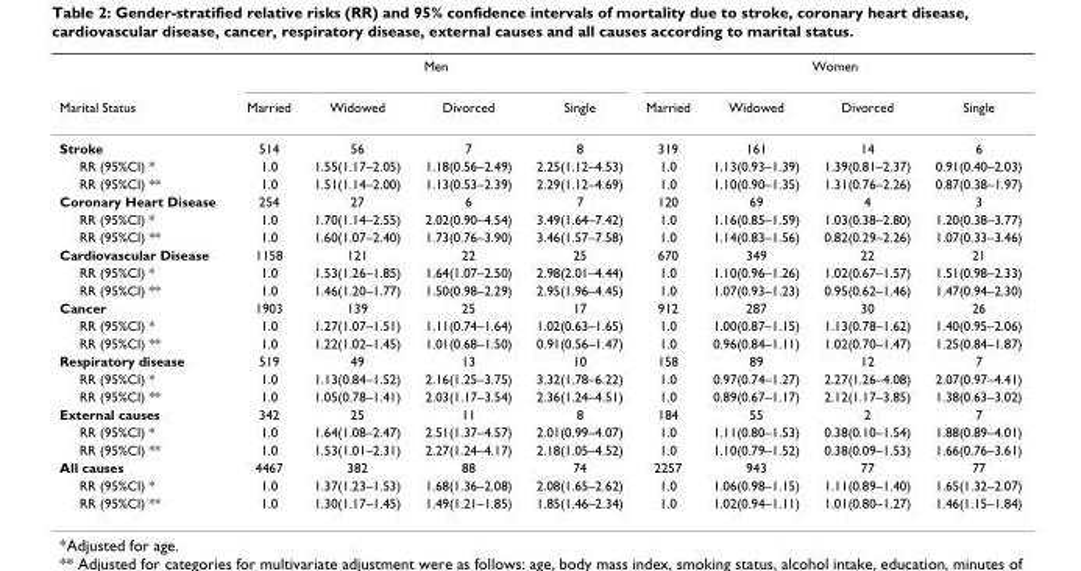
<table><thead><tr><td rowspan="2">Marital Status</td><td colspan="4">Men</td><td colspan="4">Women</td></tr><tr><td>Married</td><td>Widowed</td><td>Divorced</td><td>Single</td><td>Married</td><td>Widowed</td><td>Divorced</td><td>Single</td></tr></thead><tbody><tr><td>Stroke</td><td>514</td><td>56</td><td>7</td><td>8</td><td>319</td><td>161</td><td>14</td><td>6</td></tr><tr><td>RR (95%CI) *</td><td>1.0</td><td>1.55(1.17–2.05)</td><td>1.18(0.56–2.49)</td><td>2.25(1.12–4.53)</td><td>1.0</td><td>1.13(0.93–1.39)</td><td>1.39(0.81–2.37)</td><td>0.91(0.40–2.03)</td></tr><tr><td>RR (95%CI) **</td><td>1.0</td><td>1.51(1.14–2.00)</td><td>1.13(0.53–2.39)</td><td>2.29(1.12–4.69)</td><td>1.0</td><td>1.10(0.90–1.35)</td><td>1.31(0.76–2.26)</td><td>0.87(0.38–1.97)</td></tr><tr><td>Coronary Heart Disease</td><td>254</td><td>27</td><td>6</td><td>7</td><td>120</td><td>69</td><td>4</td><td>3</td></tr><tr><td>RR (95%CI) *</td><td>1.0</td><td>1.70(1.14–2.55)</td><td>2.02(0.90–4.54)</td><td>3.49(1.64–7.42)</td><td>1.0</td><td>1.16(0.85–1.59)</td><td>1.03(0.38–2.80)</td><td>1.20(0.38–3.77)</td></tr><tr><td>RR (95%CI) **</td><td>1.0</td><td>1.60(1.07–2.40)</td><td>1.73(0.76–3.90)</td><td>3.46(1.57–7.58)</td><td>1.0</td><td>1.14(0.83–1.56)</td><td>0.82(0.29–2.26)</td><td>1.07(0.33–3.46)</td></tr><tr><td>Cardiovascular Disease</td><td>1158</td><td>121</td><td>22</td><td>25</td><td>670</td><td>349</td><td>22</td><td>21</td></tr><tr><td>RR (95%CI) *</td><td>1.0</td><td>1.53(1.26–1.85)</td><td>1.64(1.07–2.50)</td><td>2.98(2.01–4.44)</td><td>1.0</td><td>1.10(0.96–1.26)</td><td>1.02(0.67–1.57)</td><td>1.51(0.98–2.33)</td></tr><tr><td>RR (95%CI) **</td><td>1.0</td><td>1.46(1.20–1.77)</td><td>1.50(0.98–2.29)</td><td>2.95(1.96–4.45)</td><td>1.0</td><td>1.07(0.93–1.23)</td><td>0.95(0.62–1.46)</td><td>1.47(0.94–2.30)</td></tr><tr><td>Cancer</td><td>1903</td><td>139</td><td>25</td><td>17</td><td>912</td><td>287</td><td>30</td><td>26</td></tr><tr><td>RR (95%CI) *</td><td>1.0</td><td>1.27(1.07–1.51)</td><td>1.11(0.74–1.64)</td><td>1.02(0.63–1.65)</td><td>1.0</td><td>1.00(0.87–1.15)</td><td>1.13(0.78–1.62)</td><td>1.40(0.95–2.06)</td></tr><tr><td>RR (95%CI) **</td><td>1.0</td><td>1.22(1.02–1.45)</td><td>1.01(0.68–1.50)</td><td>0.91(0.56–1.47)</td><td>1.0</td><td>0.96(0.84–1.11)</td><td>1.02(0.70–1.47)</td><td>1.25(0.84–1.87)</td></tr><tr><td>Respiratory disease</td><td>519</td><td>49</td><td>13</td><td>10</td><td>158</td><td>89</td><td>12</td><td>7</td></tr><tr><td>RR (95%CI) *</td><td>1.0</td><td>1.13(0.84–1.52)</td><td>2.16(1.25–3.75)</td><td>3.32(1.78–6.22)</td><td>1.0</td><td>0.97(0.74–1.27)</td><td>2.27(1.26–4.08)</td><td>2.07(0.97–4.41)</td></tr><tr><td>RR (95%CI) **</td><td>1.0</td><td>1.05(0.78–1.41)</td><td>2.03(1.17–3.54)</td><td>2.36(1.24–4.51)</td><td>1.0</td><td>0.89(0.67–1.17)</td><td>2.12(1.17–3.85)</td><td>1.38(0.63–3.02)</td></tr><tr><td>External causes</td><td>342</td><td>25</td><td>11</td><td>8</td><td>184</td><td>55</td><td>2</td><td>7</td></tr><tr><td>RR (95%CI) *</td><td>1.0</td><td>1.64(1.08–2.47)</td><td>2.51(1.37–4.57)</td><td>2.01(0.99–4.07)</td><td>1.0</td><td>1.11(0.80–1.53)</td><td>0.38(0.10–1.54)</td><td>1.88(0.89–4.01)</td></tr><tr><td>RR (95%CI) **</td><td>1.0</td><td>1.53(1.01–2.31)</td><td>2.27(1.24–4.17)</td><td>2.18(1.05–4.52)</td><td>1.0</td><td>1.10(0.79–1.52)</td><td>0.38(0.09–1.53)</td><td>1.66(0.76–3.61)</td></tr><tr><td>All causes</td><td>4467</td><td>382</td><td>88</td><td>74</td><td>2257</td><td>943</td><td>77</td><td>77</td></tr><tr><td>RR (95%CI) *</td><td>1.0</td><td>1.37(1.23–1.53)</td><td>1.68(1.36–2.08)</td><td>2.08(1.65–2.62)</td><td>1.0</td><td>1.06(0.98–1.15)</td><td>1.11(0.89–1.40)</td><td>1.65(1.32–2.07)</td></tr><tr><td>RR (95%CI) **</td><td>1.0</td><td>1.30(1.17–1.45)</td><td>1.49(1.21–1.85)</td><td>1.85(1.46–2.34)</td><td>1.0</td><td>1.02(0.94–1.11)</td><td>1.01(0.80–1.27)</td><td>1.46(1.15–1.84)</td></tr></tbody></table>